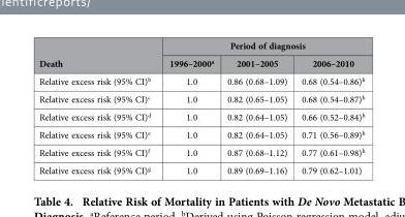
<table><thead><tr><td rowspan="2">Death</td><td colspan="3">Period of diagnosis</td></tr><tr><td>1996–2000<sup>a</sup></td><td>2001–2005</td><td>2006–2010</td></tr></thead><tbody><tr><td>Relative excess risk (95% CI)<sup>b</sup></td><td>1.0</td><td>0.86 (0.68–1.09)</td><td>0.68 (0.54–0.86)<sup>h</sup></td></tr><tr><td>Relative excess risk (95% CI)<sup>c</sup></td><td>1.0</td><td>0.82 (0.65–1.05)</td><td>0.68 (0.54–0.87)<sup>h</sup></td></tr><tr><td>Relative excess risk (95% CI)<sup>d</sup></td><td>1.0</td><td>0.82 (0.64–1.05)</td><td>0.66 (0.52–0.84)<sup>h</sup></td></tr><tr><td>Relative excess risk (95% CI)<sup>e</sup></td><td>1.0</td><td>0.82 (0.64–1.05)</td><td>0.71 (0.56–0.89)<sup>h</sup></td></tr><tr><td>Relative excess risk (95% CI)<sup>f</sup></td><td>1.0</td><td>0.87 (0.68–1.12)</td><td>0.77 (0.61–0.98)<sup>h</sup></td></tr><tr><td>Relative excess risk (95% CI)<sup>g</sup></td><td>1.0</td><td>0.89 (0.69–1.16)</td><td>0.79 (0.62–1.01)</td></tr></tbody></table>